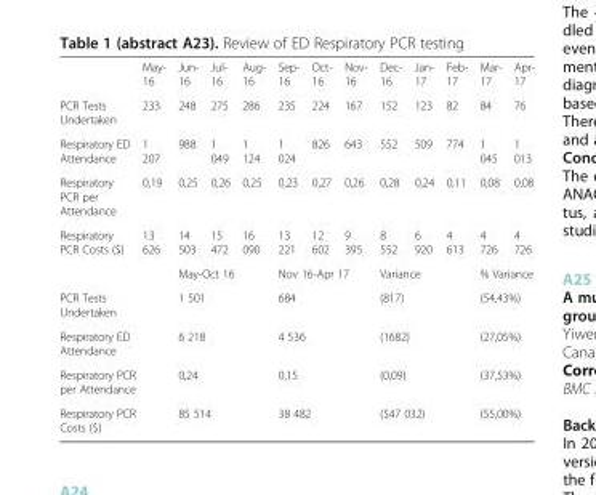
<table><thead><tr><td></td><td>May- 16</td><td>Jun- 16</td><td>Jul- 16</td><td>Aug- 16</td><td>Sep- 16</td><td>Oct- 16</td><td>Nov- 16</td><td>Dec- 16</td><td>Jan- 17</td><td>Feb- 17</td><td>Mar- 17</td><td>Apr- 17</td></tr></thead><tbody><tr><td>PCR Tests Undertaken</td><td>233</td><td>248</td><td>275</td><td>286</td><td>235</td><td>224</td><td>167</td><td>152</td><td>123</td><td>82</td><td>84</td><td>76</td></tr><tr><td>Respiratory ED Attendance</td><td>1 207</td><td>988</td><td>1 049</td><td>1 124</td><td>1 024</td><td>826</td><td>643</td><td>552</td><td>509</td><td>774</td><td>1 045</td><td>1 013</td></tr><tr><td>Respiratory PCR per Attendance</td><td>0,19</td><td>0,25</td><td>0,26</td><td>0,25</td><td>0,23</td><td>0,27</td><td>0,26</td><td>0,28</td><td>0,24</td><td>0,11</td><td>0,08</td><td>0,08</td></tr><tr><td>Respiratory PCR Costs ($)</td><td>13 626</td><td>14 503</td><td>15 472</td><td>16 090</td><td>13 221</td><td>12 602</td><td>9 395</td><td>8 552</td><td>6 920</td><td>4 613</td><td>4 726</td><td>4 726</td></tr><tr><td colspan="2"></td><td colspan="3">May-Oct 16</td><td colspan="3">Nov 16-Apr 17</td><td colspan="3">Variance</td><td colspan="2">% Variance</td></tr><tr><td colspan="2">PCR Tests Undertaken</td><td colspan="3">1 501</td><td colspan="3">684</td><td colspan="3">(817)</td><td colspan="2">(54,43%)</td></tr><tr><td colspan="2">Respiratory ED Attendance</td><td colspan="3">6 218</td><td colspan="3">4 536</td><td colspan="3">(1682)</td><td colspan="2">(27,05%)</td></tr><tr><td colspan="2">Respiratory PCR per Attendance</td><td colspan="3">0,24</td><td colspan="3">0,15</td><td colspan="3">(0,09)</td><td colspan="2">(37,53%)</td></tr><tr><td colspan="2">Respiratory PCR Costs ($)</td><td colspan="3">85 514</td><td colspan="3">38 482</td><td colspan="3">($47 032)</td><td colspan="2">(55,00%)</td></tr></tbody></table>